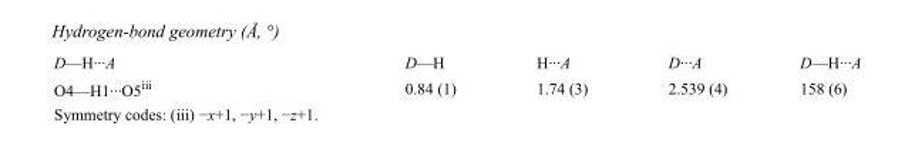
<table><tbody><tr><td>D—H···A</td><td>D—H</td><td>H···A</td><td>D···A</td><td>D—H···A</td></tr><tr><td>O4—H1···O5<sup>iii</sup></td><td>0.84 (1)</td><td>1.74 (3)</td><td>2.539 (4)</td><td>158 (6)</td></tr></tbody></table>